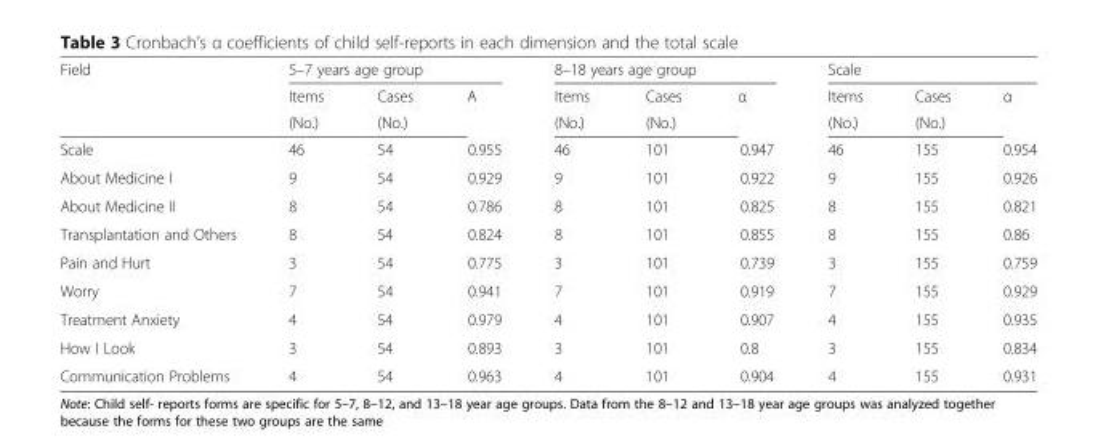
<table><thead><tr><td rowspan="3">Field</td><td colspan="3">5–7 years age group</td><td colspan="3">8–18 years age group</td><td colspan="3">Scale</td></tr><tr><td rowspan="2">Items (No.)</td><td rowspan="2">Cases (No.)</td><td rowspan="2">A</td><td rowspan="2">Items (No.)</td><td rowspan="2">Cases (No.)</td><td rowspan="2">α</td><td rowspan="2">Items (No.)</td><td rowspan="2">Cases (No.)</td><td rowspan="2">α</td></tr><tr></tr></thead><tbody><tr><td>Scale</td><td>46</td><td>54</td><td>0.955</td><td>46</td><td>101</td><td>0.947</td><td>46</td><td>155</td><td>0.954</td></tr><tr><td>About Medicine I</td><td>9</td><td>54</td><td>0.929</td><td>9</td><td>101</td><td>0.922</td><td>9</td><td>155</td><td>0.926</td></tr><tr><td>About Medicine II</td><td>8</td><td>54</td><td>0.786</td><td>8</td><td>101</td><td>0.825</td><td>8</td><td>155</td><td>0.821</td></tr><tr><td>Transplantation and Others</td><td>8</td><td>54</td><td>0.824</td><td>8</td><td>101</td><td>0.855</td><td>8</td><td>155</td><td>0.86</td></tr><tr><td>Pain and Hurt</td><td>3</td><td>54</td><td>0.775</td><td>3</td><td>101</td><td>0.739</td><td>3</td><td>155</td><td>0.759</td></tr><tr><td>Worry</td><td>7</td><td>54</td><td>0.941</td><td>7</td><td>101</td><td>0.919</td><td>7</td><td>155</td><td>0.929</td></tr><tr><td>Treatment Anxiety</td><td>4</td><td>54</td><td>0.979</td><td>4</td><td>101</td><td>0.907</td><td>4</td><td>155</td><td>0.935</td></tr><tr><td>How I Look</td><td>3</td><td>54</td><td>0.893</td><td>3</td><td>101</td><td>0.8</td><td>3</td><td>155</td><td>0.834</td></tr><tr><td>Communication Problems</td><td>4</td><td>54</td><td>0.963</td><td>4</td><td>101</td><td>0.904</td><td>4</td><td>155</td><td>0.931</td></tr></tbody></table>